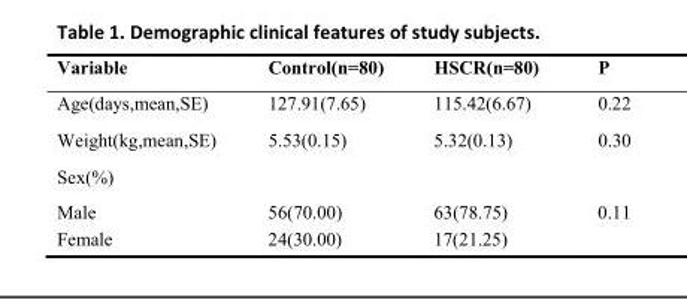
<table><tbody><tr><td>Variable</td><td>Control(n=80)</td><td>HSCR(n=80)</td><td>P</td></tr><tr><td>Age(days,mean,SE)</td><td>127.91(7.65)</td><td>115.42(6.67)</td><td>0.22</td></tr><tr><td>Weight(kg,mean,SE)</td><td>5.53(0.15)</td><td>5.32(0.13)</td><td>0.30</td></tr><tr><td colspan="4">Sex(%)</td></tr><tr><td>Male</td><td>56(70.00)</td><td>63(78.75)</td><td>0.11</td></tr><tr><td>Female</td><td>24(30.00)</td><td>17(21.25)</td><td></td></tr></tbody></table>